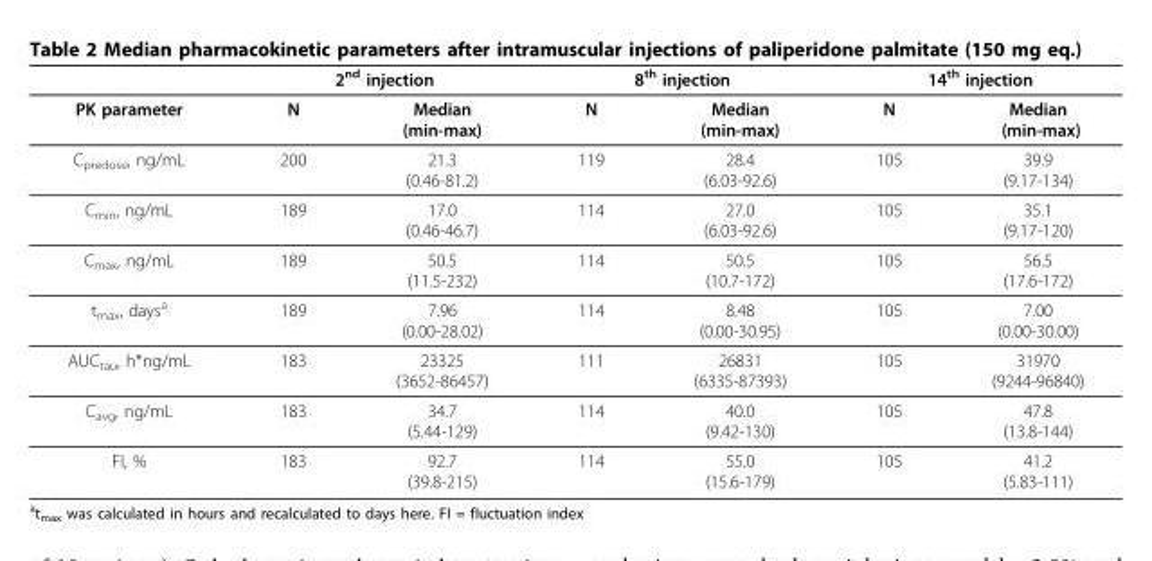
<table><thead><tr><td rowspan="2">PK parameter</td><td colspan="2">2<sup>nd</sup> injection</td><td colspan="2">8<sup>th</sup> injection</td><td colspan="2">14<sup>th</sup> injection</td></tr><tr><td>N</td><td>Median (min-max)</td><td>N</td><td>Median (min-max)</td><td>N</td><td>Median (min-max)</td></tr></thead><tbody><tr><td>C<sub>predose</sub>, ng/mL</td><td>200</td><td>21.3 (0.46-81.2)</td><td>119</td><td>28.4 (6.03-92.6)</td><td>105</td><td>39.9 (9.17-134)</td></tr><tr><td>C<sub>min</sub>, ng/mL</td><td>189</td><td>17.0 (0.46-46.7)</td><td>114</td><td>27.0 (6.03-92.6)</td><td>105</td><td>35.1 (9.17-120)</td></tr><tr><td>C<sub>max</sub>, ng/mL</td><td>189</td><td>50.5 (11.5-232)</td><td>114</td><td>50.5 (10.7-172)</td><td>105</td><td>56.5 (17.6-172)</td></tr><tr><td>t<sub>max</sub>, days<sup>a</sup></td><td>189</td><td>7.96 (0.00-28.02)</td><td>114</td><td>8.48 (0.00-30.95)</td><td>105</td><td>7.00 (0.00-30.00)</td></tr><tr><td>AUC<sub>tau</sub>, h*ng/mL</td><td>183</td><td>23325 (3652-86457)</td><td>111</td><td>26831 (6335-87393)</td><td>105</td><td>31970 (9244-96840)</td></tr><tr><td>C<sub>avg</sub>, ng/mL</td><td>183</td><td>34.7 (5.44-129)</td><td>114</td><td>40.0 (9.42-130)</td><td>105</td><td>47.8 (13.8-144)</td></tr><tr><td>FI, %</td><td>183</td><td>92.7 (39.8-215)</td><td>114</td><td>55.0 (15.6-179)</td><td>105</td><td>41.2 (5.83-111)</td></tr></tbody></table>